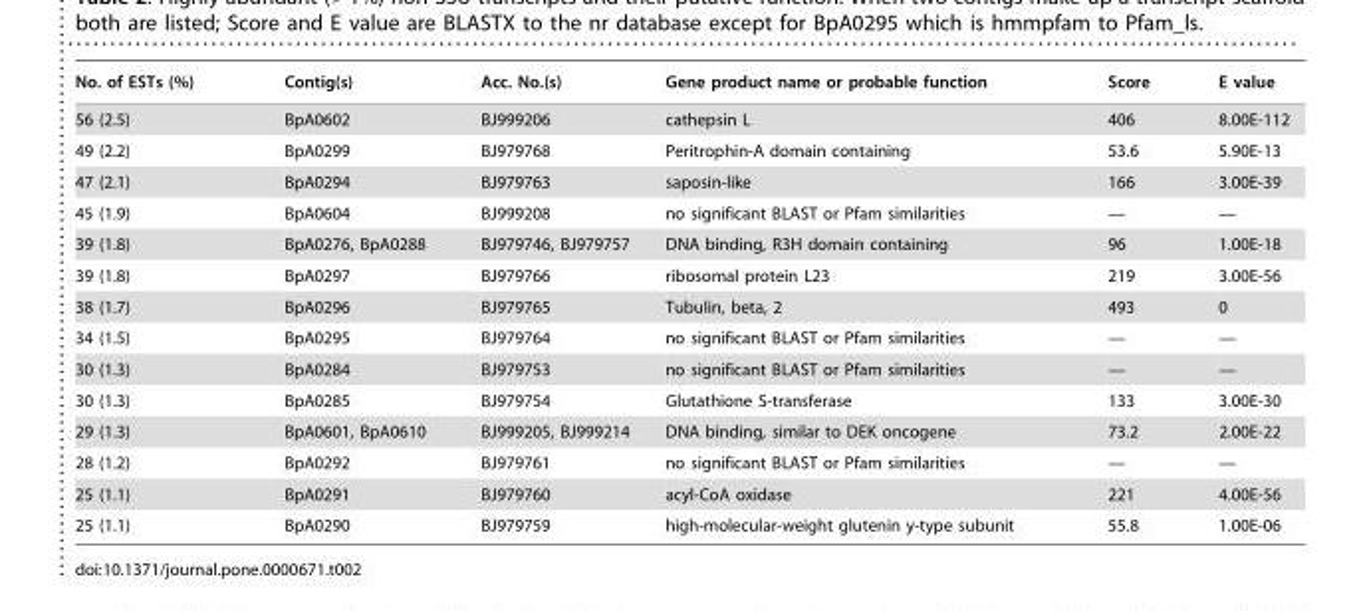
<table><thead><tr><td>No. of ESTs (%)</td><td>Contig(s)</td><td>Acc. No.(s)</td><td>Gene product name or probable function</td><td>Score</td><td>E value</td></tr></thead><tbody><tr><td>56 (2.5)</td><td>BpA0602</td><td>BJ999206</td><td>cathepsin L</td><td>406</td><td>8.00E-112</td></tr><tr><td>49 (2.2)</td><td>BpA0299</td><td>BJ979768</td><td>Peritrophin-A domain containing</td><td>53.6</td><td>5.90E-13</td></tr><tr><td>47 (2.1)</td><td>BpA0294</td><td>BJ979763</td><td>saposin-like</td><td>166</td><td>3.00E-39</td></tr><tr><td>45 (1.9)</td><td>BpA0604</td><td>BJ999208</td><td>no significant BLAST or Pfam similarities</td><td>—</td><td>—</td></tr><tr><td>39 (1.8)</td><td>BpA0276, BpA0288</td><td>BJ979746, BJ979757</td><td>DNA binding, R3H domain containing</td><td>96</td><td>1.00E-18</td></tr><tr><td>39 (1.8)</td><td>BpA0297</td><td>BJ979766</td><td>ribosomal protein L23</td><td>219</td><td>3.00E-56</td></tr><tr><td>38 (1.7)</td><td>BpA0296</td><td>BJ979765</td><td>Tubulin, beta, 2</td><td>493</td><td>0</td></tr><tr><td>34 (1.5)</td><td>BpA0295</td><td>BJ979764</td><td>no significant BLAST or Pfam similarities</td><td>—</td><td>—</td></tr><tr><td>30 (1.3)</td><td>BpA0284</td><td>BJ979753</td><td>no significant BLAST or Pfam similarities</td><td>—</td><td>—</td></tr><tr><td>30 (1.3)</td><td>BpA0285</td><td>BJ979754</td><td>Glutathione S-transferase</td><td>133</td><td>3.00E-30</td></tr><tr><td>29 (1.3)</td><td>BpA0601, BpA0610</td><td>BJ999205, BJ999214</td><td>DNA binding, similar to DEK oncogene</td><td>73.2</td><td>2.00E-22</td></tr><tr><td>28 (1.2)</td><td>BpA0292</td><td>BJ979761</td><td>no significant BLAST or Pfam similarities</td><td>—</td><td>—</td></tr><tr><td>25 (1.1)</td><td>BpA0291</td><td>BJ979760</td><td>acyl-CoA oxidase</td><td>221</td><td>4.00E-56</td></tr><tr><td>25 (1.1)</td><td>BpA0290</td><td>BJ979759</td><td>high-molecular-weight glutenin y-type subunit</td><td>55.8</td><td>1.00E-06</td></tr></tbody></table>